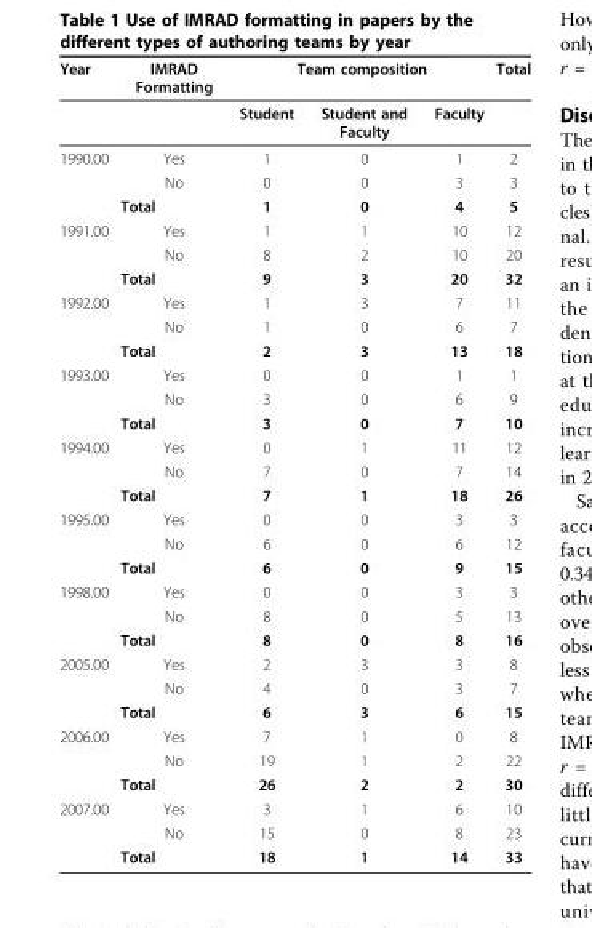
<table><thead><tr><td rowspan="2">Year</td><td rowspan="2">IMRAD Formatting</td><td colspan="3">Team composition</td><td rowspan="2">Total</td></tr><tr><td>Student</td><td>Student and Faculty</td><td>Faculty</td></tr></thead><tbody><tr><td rowspan="3">1990.00</td><td>Yes</td><td>1</td><td>0</td><td>1</td><td>2</td></tr><tr><td>No</td><td>0</td><td>0</td><td>3</td><td>3</td></tr><tr><td>Total</td><td>1</td><td>0</td><td>4</td><td>5</td></tr><tr><td rowspan="3">1991.00</td><td>Yes</td><td>1</td><td>1</td><td>10</td><td>12</td></tr><tr><td>No</td><td>8</td><td>2</td><td>10</td><td>20</td></tr><tr><td>Total</td><td>9</td><td>3</td><td>20</td><td>32</td></tr><tr><td rowspan="3">1992.00</td><td>Yes</td><td>1</td><td>3</td><td>7</td><td>11</td></tr><tr><td>No</td><td>1</td><td>0</td><td>6</td><td>7</td></tr><tr><td>Total</td><td>2</td><td>3</td><td>13</td><td>18</td></tr><tr><td rowspan="3">1993.00</td><td>Yes</td><td>0</td><td>0</td><td>1</td><td>1</td></tr><tr><td>No</td><td>3</td><td>0</td><td>6</td><td>9</td></tr><tr><td>Total</td><td>3</td><td>0</td><td>7</td><td>10</td></tr><tr><td rowspan="3">1994.00</td><td>Yes</td><td>0</td><td>1</td><td>11</td><td>12</td></tr><tr><td>No</td><td>7</td><td>0</td><td>7</td><td>14</td></tr><tr><td>Total</td><td>7</td><td>1</td><td>18</td><td>26</td></tr><tr><td rowspan="3">1995.00</td><td>Yes</td><td>0</td><td>0</td><td>3</td><td>3</td></tr><tr><td>No</td><td>6</td><td>0</td><td>6</td><td>12</td></tr><tr><td>Total</td><td>6</td><td>0</td><td>9</td><td>15</td></tr><tr><td rowspan="3">1998.00</td><td>Yes</td><td>0</td><td>0</td><td>3</td><td>3</td></tr><tr><td>No</td><td>8</td><td>0</td><td>5</td><td>13</td></tr><tr><td>Total</td><td>8</td><td>0</td><td>8</td><td>16</td></tr><tr><td rowspan="3">2005.00</td><td>Yes</td><td>2</td><td>3</td><td>3</td><td>8</td></tr><tr><td>No</td><td>4</td><td>0</td><td>3</td><td>7</td></tr><tr><td>Total</td><td>6</td><td>3</td><td>6</td><td>15</td></tr><tr><td rowspan="3">2006.00</td><td>Yes</td><td>7</td><td>1</td><td>0</td><td>8</td></tr><tr><td>No</td><td>19</td><td>1</td><td>2</td><td>22</td></tr><tr><td>Total</td><td>26</td><td>2</td><td>2</td><td>30</td></tr><tr><td rowspan="3">2007.00</td><td>Yes</td><td>3</td><td>1</td><td>6</td><td>10</td></tr><tr><td>No</td><td>15</td><td>0</td><td>8</td><td>23</td></tr><tr><td>Total</td><td>18</td><td>1</td><td>14</td><td>33</td></tr></tbody></table>